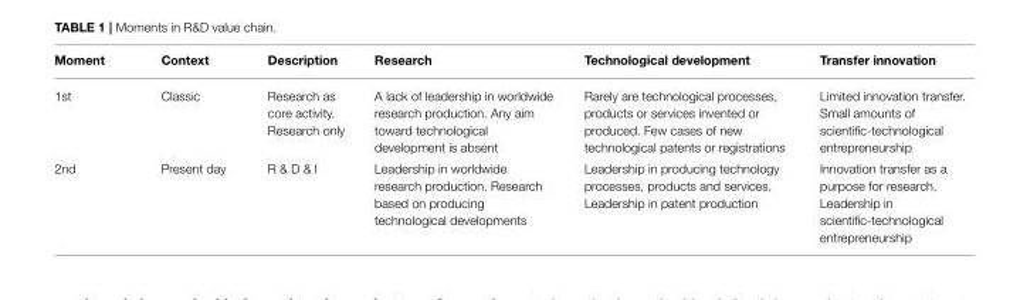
<table><thead><tr><td>Moment</td><td>Context</td><td>Description</td><td>Research</td><td>Technological development</td><td>Transfer innovation</td></tr></thead><tbody><tr><td>1st</td><td>Classic</td><td>Research as core activity. Research only</td><td>A lack of leadership in worldwide research production. Any aim toward technological development is absent</td><td>Rarely are technological processes, products or services invented or produced. Few cases of new technological patents or registrations</td><td>Limited innovation transfer. Small amounts of scientific-technological entrepreneurship</td></tr><tr><td>2nd</td><td>Present day</td><td>R &amp; D &amp; I</td><td>Leadership in worldwide research production. Research based on producing technological developments</td><td>Leadership in producing technology processes, products and services. Leadership in patent production</td><td>Innovation transfer as a purpose for research. Leadership in scientific-technological entrepreneurship</td></tr></tbody></table>